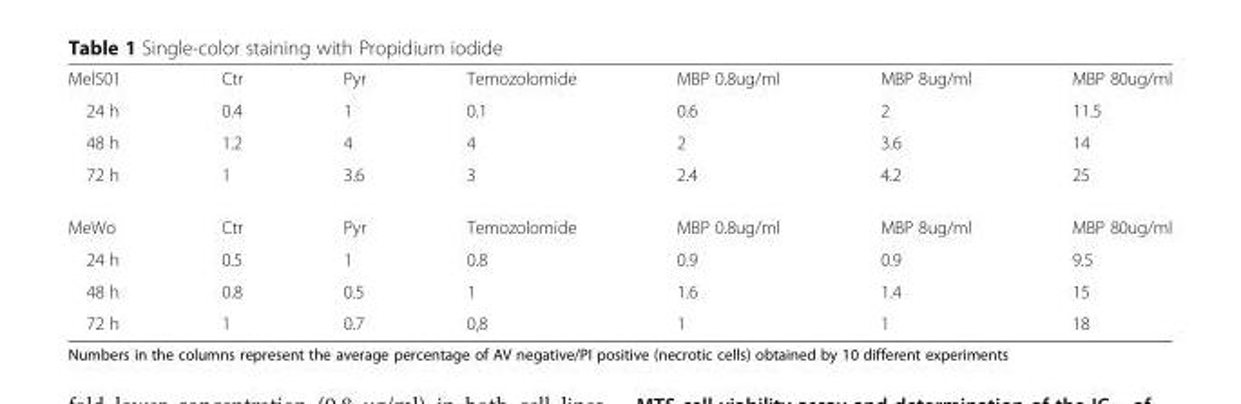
<table><tbody><tr><td>Mel501</td><td>Ctr</td><td>Pyr</td><td>Temozolomide</td><td>MBP 0.8ug/ml</td><td>MBP 8ug/ml</td><td>MBP 80ug/ml</td></tr><tr><td>24 h</td><td>0.4</td><td>1</td><td>0.1</td><td>0.6</td><td>2</td><td>11.5</td></tr><tr><td>48 h</td><td>1.2</td><td>4</td><td>4</td><td>2</td><td>3.6</td><td>14</td></tr><tr><td>72 h</td><td>1</td><td>3.6</td><td>3</td><td>2.4</td><td>4.2</td><td>25</td></tr><tr><td>MeWo</td><td>Ctr</td><td>Pyr</td><td>Temozolomide</td><td>MBP 0.8ug/ml</td><td>MBP 8ug/ml</td><td>MBP 80ug/ml</td></tr><tr><td>24 h</td><td>0.5</td><td>1</td><td>0.8</td><td>0.9</td><td>0.9</td><td>9.5</td></tr><tr><td>48 h</td><td>0.8</td><td>0.5</td><td>1</td><td>1.6</td><td>1.4</td><td>15</td></tr><tr><td>72 h</td><td>1</td><td>0.7</td><td>0,8</td><td>1</td><td>1</td><td>18</td></tr></tbody></table>